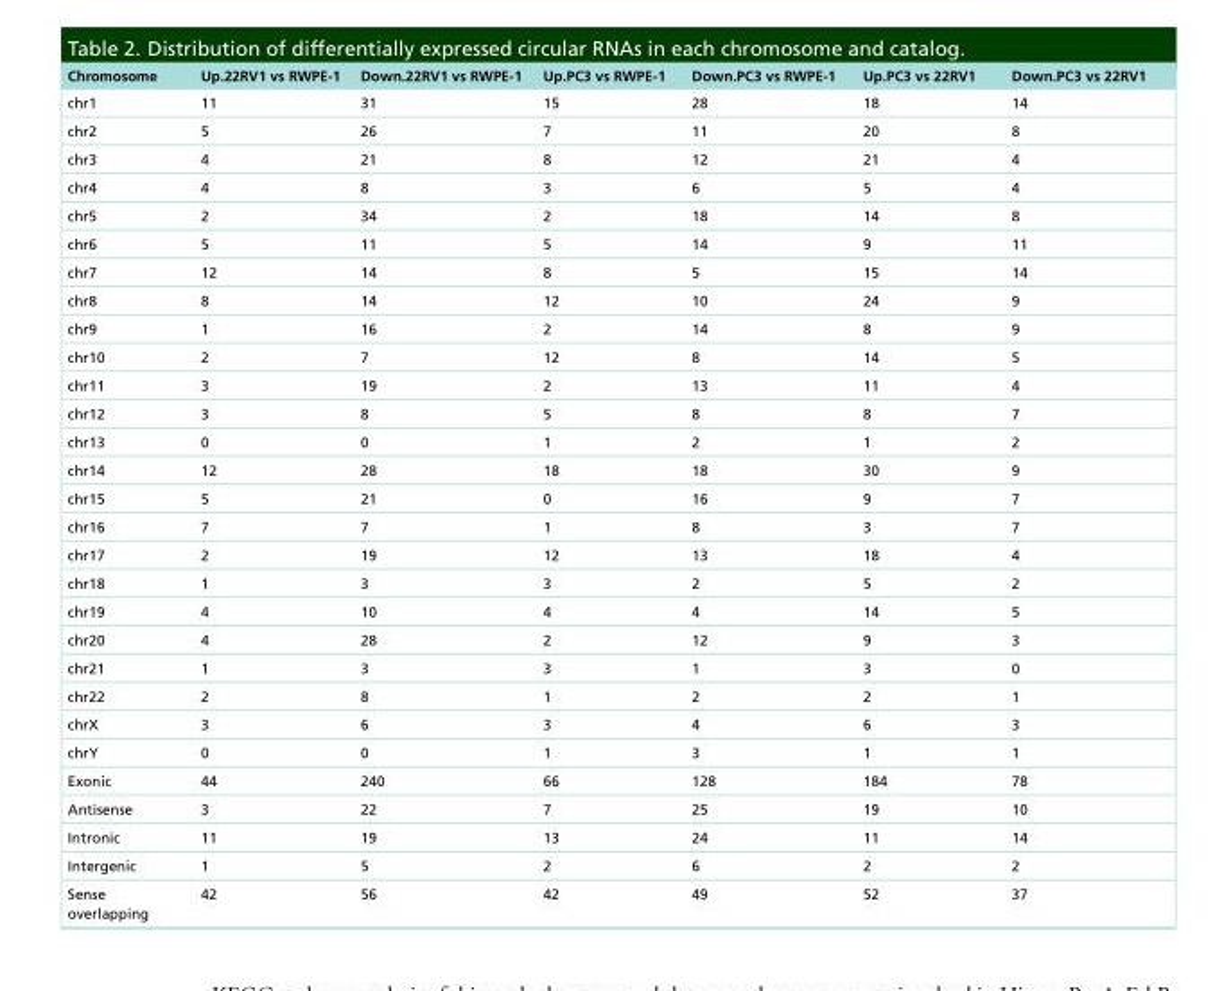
<table><thead><tr><td>Chromosome</td><td>Up.22RV1 vs RWPE-1</td><td>Down.22RV1 vs RWPE-1</td><td>Up.PC3 vs RWPE-1</td><td>Down.PC3 vs RWPE-1</td><td>Up.PC3 vs 22RV1</td><td>Down.PC3 vs 22RV1</td></tr></thead><tbody><tr><td>chr1</td><td>11</td><td>31</td><td>15</td><td>28</td><td>18</td><td>14</td></tr><tr><td>chr2</td><td>5</td><td>26</td><td>7</td><td>11</td><td>20</td><td>8</td></tr><tr><td>chr3</td><td>4</td><td>21</td><td>8</td><td>12</td><td>21</td><td>4</td></tr><tr><td>chr4</td><td>4</td><td>8</td><td>3</td><td>6</td><td>5</td><td>4</td></tr><tr><td>chr5</td><td>2</td><td>34</td><td>2</td><td>18</td><td>14</td><td>8</td></tr><tr><td>chr6</td><td>5</td><td>11</td><td>5</td><td>14</td><td>9</td><td>11</td></tr><tr><td>chr7</td><td>12</td><td>14</td><td>8</td><td>5</td><td>15</td><td>14</td></tr><tr><td>chr8</td><td>8</td><td>14</td><td>12</td><td>10</td><td>24</td><td>9</td></tr><tr><td>chr9</td><td>1</td><td>16</td><td>2</td><td>14</td><td>8</td><td>9</td></tr><tr><td>chr10</td><td>2</td><td>7</td><td>12</td><td>8</td><td>14</td><td>5</td></tr><tr><td>chr11</td><td>3</td><td>19</td><td>2</td><td>13</td><td>11</td><td>4</td></tr><tr><td>chr12</td><td>3</td><td>8</td><td>5</td><td>8</td><td>8</td><td>7</td></tr><tr><td>chr13</td><td>0</td><td>0</td><td>1</td><td>2</td><td>1</td><td>2</td></tr><tr><td>chr14</td><td>12</td><td>28</td><td>18</td><td>18</td><td>30</td><td>9</td></tr><tr><td>chr15</td><td>5</td><td>21</td><td>0</td><td>16</td><td>9</td><td>7</td></tr><tr><td>chr16</td><td>7</td><td>7</td><td>1</td><td>8</td><td>3</td><td>7</td></tr><tr><td>chr17</td><td>2</td><td>19</td><td>12</td><td>13</td><td>18</td><td>4</td></tr><tr><td>chr18</td><td>1</td><td>3</td><td>3</td><td>2</td><td>5</td><td>2</td></tr><tr><td>chr19</td><td>4</td><td>10</td><td>4</td><td>4</td><td>14</td><td>5</td></tr><tr><td>chr20</td><td>4</td><td>28</td><td>2</td><td>12</td><td>9</td><td>3</td></tr><tr><td>chr21</td><td>1</td><td>3</td><td>3</td><td>1</td><td>3</td><td>0</td></tr><tr><td>chr22</td><td>2</td><td>8</td><td>1</td><td>2</td><td>2</td><td>1</td></tr><tr><td>chrX</td><td>3</td><td>6</td><td>3</td><td>4</td><td>6</td><td>3</td></tr><tr><td>chrY</td><td>0</td><td>0</td><td>1</td><td>3</td><td>1</td><td>1</td></tr><tr><td>Exonic</td><td>44</td><td>240</td><td>66</td><td>128</td><td>184</td><td>78</td></tr><tr><td>Antisense</td><td>3</td><td>22</td><td>7</td><td>25</td><td>19</td><td>10</td></tr><tr><td>Intronic</td><td>11</td><td>19</td><td>13</td><td>24</td><td>11</td><td>14</td></tr><tr><td>Intergenic</td><td>1</td><td>5</td><td>2</td><td>6</td><td>2</td><td>2</td></tr><tr><td>Sense overlapping</td><td>42</td><td>56</td><td>42</td><td>49</td><td>52</td><td>37</td></tr></tbody></table>